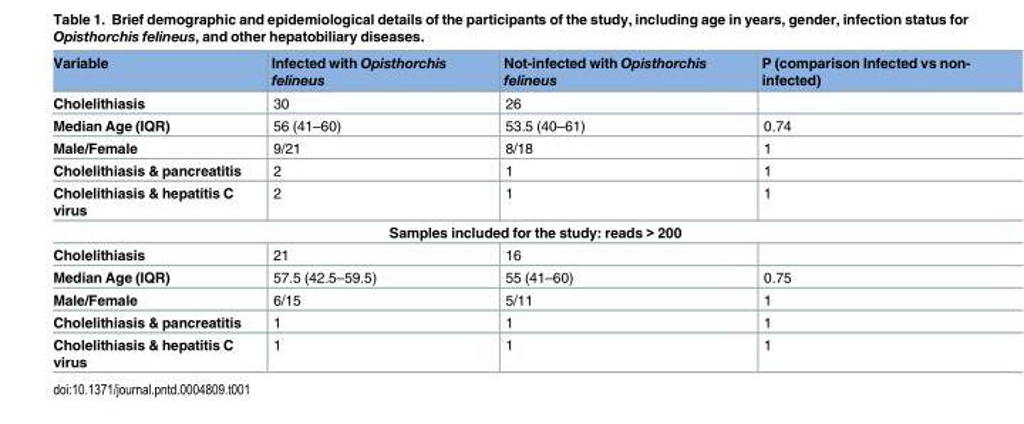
<table><thead><tr><td>Variable</td><td>Infected with Opisthorchis felineus</td><td>Not-infected with Opisthorchis felineus</td><td>P (comparison Infected vs non- infected)</td></tr></thead><tbody><tr><td>Cholelithiasis</td><td>30</td><td>26</td><td></td></tr><tr><td>Median Age (IQR)</td><td>56 (41–60)</td><td>53.5 (40–61)</td><td>0.74</td></tr><tr><td>Male/Female</td><td>9/21</td><td>8/18</td><td>1</td></tr><tr><td>Cholelithiasis &amp; pancreatitis</td><td>2</td><td>1</td><td>1</td></tr><tr><td>Cholelithiasis &amp; hepatitis C virus</td><td>2</td><td>1</td><td>1</td></tr><tr><td colspan="4">Samples included for the study: reads &gt; 200</td></tr><tr><td>Cholelithiasis</td><td>21</td><td>16</td><td></td></tr><tr><td>Median Age (IQR)</td><td>57.5 (42.5–59.5)</td><td>55 (41–60)</td><td>0.75</td></tr><tr><td>Male/Female</td><td>6/15</td><td>5/11</td><td>1</td></tr><tr><td>Cholelithiasis &amp; pancreatitis</td><td>1</td><td>1</td><td>1</td></tr><tr><td>Cholelithiasis &amp; hepatitis C virus</td><td>1</td><td>1</td><td>1</td></tr></tbody></table>